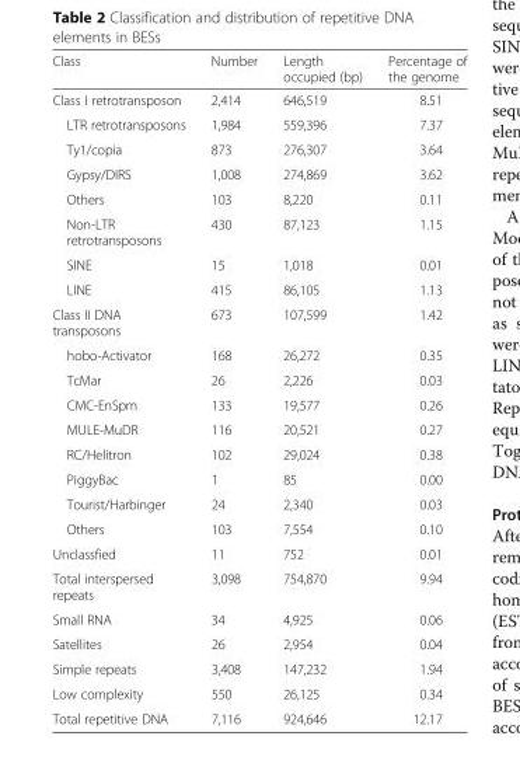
<table><thead><tr><td>Class</td><td>Number</td><td>Length occupied (bp)</td><td>Percentage of the genome</td></tr></thead><tbody><tr><td>Class I retrotransposon</td><td>2,414</td><td>646,519</td><td>8.51</td></tr><tr><td>LTR retrotransposons</td><td>1,984</td><td>559,396</td><td>7.37</td></tr><tr><td>Ty1/copia</td><td>873</td><td>276,307</td><td>3.64</td></tr><tr><td>Gypsy/DIRS</td><td>1,008</td><td>274,869</td><td>3.62</td></tr><tr><td>Others</td><td>103</td><td>8,220</td><td>0.11</td></tr><tr><td>Non-LTR retrotransposons</td><td>430</td><td>87,123</td><td>1.15</td></tr><tr><td>SINE</td><td>15</td><td>1,018</td><td>0.01</td></tr><tr><td>LINE</td><td>415</td><td>86,105</td><td>1.13</td></tr><tr><td>Class II DNA transposons</td><td>673</td><td>107,599</td><td>1.42</td></tr><tr><td>hobo-Activator</td><td>168</td><td>26,272</td><td>0.35</td></tr><tr><td>TcMar</td><td>26</td><td>2,226</td><td>0.03</td></tr><tr><td>CMC-EnSpm</td><td>133</td><td>19,577</td><td>0.26</td></tr><tr><td>MULE-MuDR</td><td>116</td><td>20,521</td><td>0.27</td></tr><tr><td>RC/Helitron</td><td>102</td><td>29,024</td><td>0.38</td></tr><tr><td>PiggyBac</td><td>1</td><td>85</td><td>0.00</td></tr><tr><td>Tourist/Harbinger</td><td>24</td><td>2,340</td><td>0.03</td></tr><tr><td>Others</td><td>103</td><td>7,554</td><td>0.10</td></tr><tr><td>Unclassfied</td><td>11</td><td>752</td><td>0.01</td></tr><tr><td>Total interspersed repeats</td><td>3,098</td><td>754,870</td><td>9.94</td></tr><tr><td>Small RNA</td><td>34</td><td>4,925</td><td>0.06</td></tr><tr><td>Satellites</td><td>26</td><td>2,954</td><td>0.04</td></tr><tr><td>Simple repeats</td><td>3,408</td><td>147,232</td><td>1.94</td></tr><tr><td>Low complexity</td><td>550</td><td>26,125</td><td>0.34</td></tr><tr><td>Total repetitive DNA</td><td>7,116</td><td>924,646</td><td>12.17</td></tr></tbody></table>